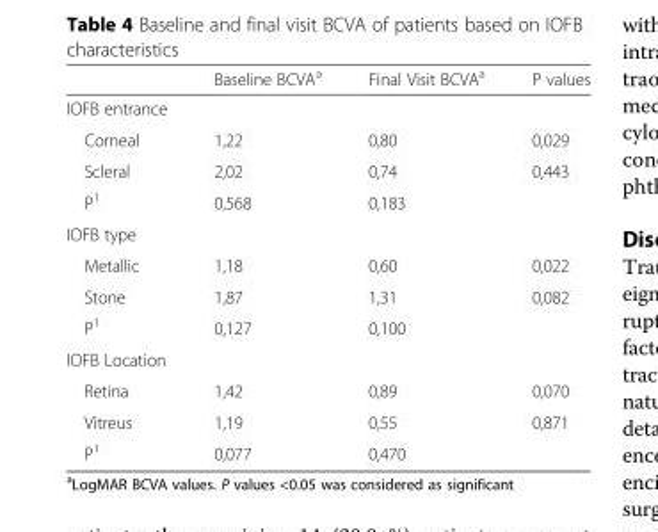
<table><thead><tr><td></td><td>Baseline BCVA<sup>a</sup></td><td>Final Visit BCVA<sup>a</sup></td><td>P values</td></tr></thead><tbody><tr><td colspan="4">IOFB entrance</td></tr><tr><td>Corneal</td><td>1,22</td><td>0,80</td><td>0,029</td></tr><tr><td>Scleral</td><td>2,02</td><td>0,74</td><td>0,443</td></tr><tr><td>P<sup>1</sup></td><td>0,568</td><td>0,183</td><td></td></tr><tr><td colspan="4">IOFB type</td></tr><tr><td>Metallic</td><td>1,18</td><td>0,60</td><td>0,022</td></tr><tr><td>Stone</td><td>1,87</td><td>1,31</td><td>0,082</td></tr><tr><td>P<sup>1</sup></td><td>0,127</td><td>0,100</td><td></td></tr><tr><td colspan="4">IOFB Location</td></tr><tr><td>Retina</td><td>1,42</td><td>0,89</td><td>0,070</td></tr><tr><td>Vitreus</td><td>1,19</td><td>0,55</td><td>0,871</td></tr><tr><td>P<sup>1</sup></td><td>0,077</td><td>0,470</td><td></td></tr></tbody></table>